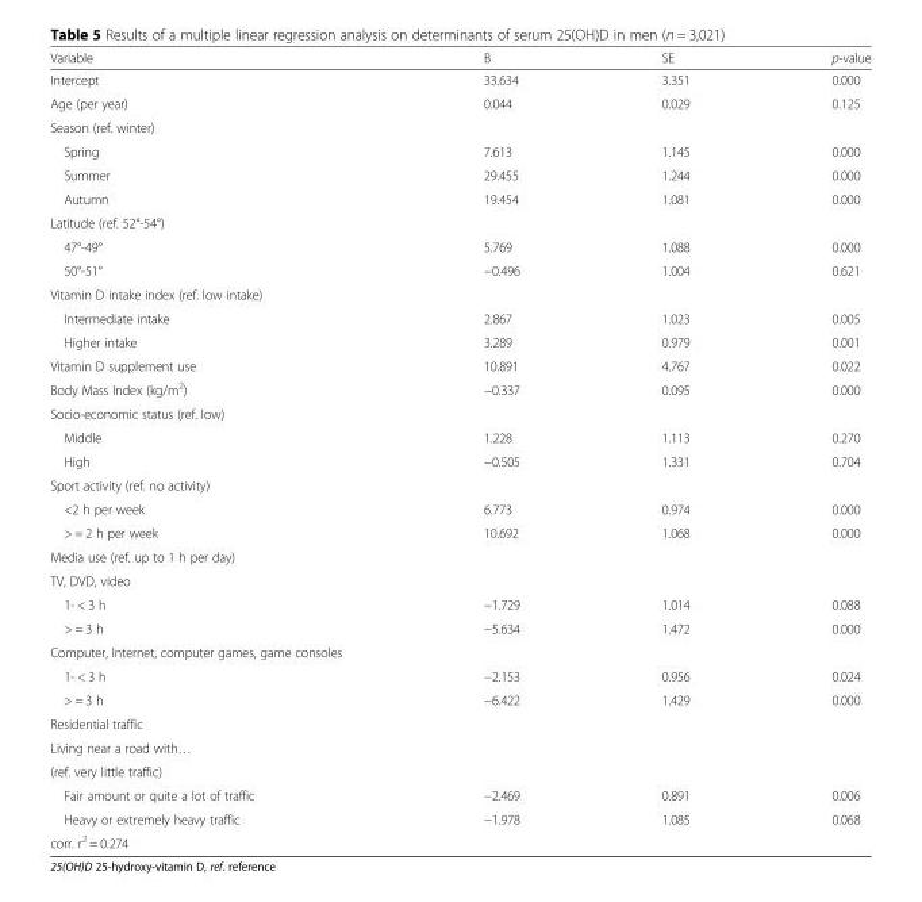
<table><thead><tr><td>Variable</td><td>B</td><td>SE</td><td>p-value</td></tr></thead><tbody><tr><td>Intercept</td><td>33.634</td><td>3.351</td><td>0.000</td></tr><tr><td>Age (per year)</td><td>0.044</td><td>0.029</td><td>0.125</td></tr><tr><td colspan="4">Season (ref. winter)</td></tr><tr><td>Spring</td><td>7.613</td><td>1.145</td><td>0.000</td></tr><tr><td>Summer</td><td>29.455</td><td>1.244</td><td>0.000</td></tr><tr><td>Autumn</td><td>19.454</td><td>1.081</td><td>0.000</td></tr><tr><td colspan="4">Latitude (ref. 52°-54°)</td></tr><tr><td>47°-49°</td><td>5.769</td><td>1.088</td><td>0.000</td></tr><tr><td>50°-51°</td><td>−0.496</td><td>1.004</td><td>0.621</td></tr><tr><td colspan="4">Vitamin D intake index (ref. low intake)</td></tr><tr><td>Intermediate intake</td><td>2.867</td><td>1.023</td><td>0.005</td></tr><tr><td>Higher intake</td><td>3.289</td><td>0.979</td><td>0.001</td></tr><tr><td>Vitamin D supplement use</td><td>10.891</td><td>4.767</td><td>0.022</td></tr><tr><td>Body Mass Index (kg/m<sup>2</sup>)</td><td>−0.337</td><td>0.095</td><td>0.000</td></tr><tr><td colspan="4">Socio-economic status (ref. low)</td></tr><tr><td>Middle</td><td>1.228</td><td>1.113</td><td>0.270</td></tr><tr><td>High</td><td>−0.505</td><td>1.331</td><td>0.704</td></tr><tr><td colspan="4">Sport activity (ref. no activity)</td></tr><tr><td>&lt;2 h per week</td><td>6.773</td><td>0.974</td><td>0.000</td></tr><tr><td>&gt; = 2 h per week</td><td>10.692</td><td>1.068</td><td>0.000</td></tr><tr><td colspan="4">Media use (ref. up to 1 h per day)</td></tr><tr><td colspan="4">TV, DVD, video</td></tr><tr><td>1- &lt; 3 h</td><td>−1.729</td><td>1.014</td><td>0.088</td></tr><tr><td>&gt; = 3 h</td><td>−5.634</td><td>1.472</td><td>0.000</td></tr><tr><td colspan="4">Computer, Internet, computer games, game consoles</td></tr><tr><td>1- &lt; 3 h</td><td>−2.153</td><td>0.956</td><td>0.024</td></tr><tr><td>&gt; = 3 h</td><td>−6.422</td><td>1.429</td><td>0.000</td></tr><tr><td colspan="4">Residential traffic</td></tr><tr><td colspan="4">Living near a road with…</td></tr><tr><td colspan="4">(ref. very little traffic)</td></tr><tr><td>Fair amount or quite a lot of traffic</td><td>−2.469</td><td>0.891</td><td>0.006</td></tr><tr><td>Heavy or extremely heavy traffic</td><td>−1.978</td><td>1.085</td><td>0.068</td></tr><tr><td>corr. r<sup>2</sup> = 0.274</td><td></td><td></td><td></td></tr></tbody></table>